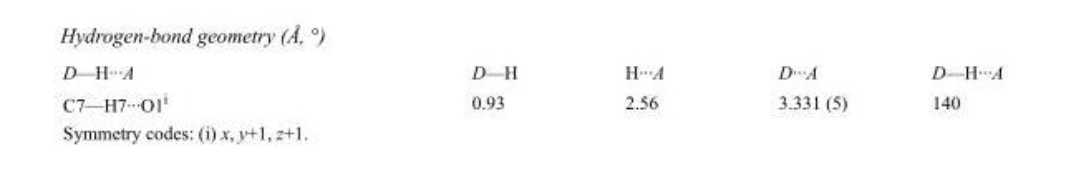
<table><tbody><tr><td>D—H···A</td><td>D—H</td><td>H···A</td><td>D···A</td><td>D—H···A</td></tr><tr><td>C7—H7···O1<sup>i</sup></td><td>0.93</td><td>2.56</td><td>3.331 (5)</td><td>140</td></tr></tbody></table>